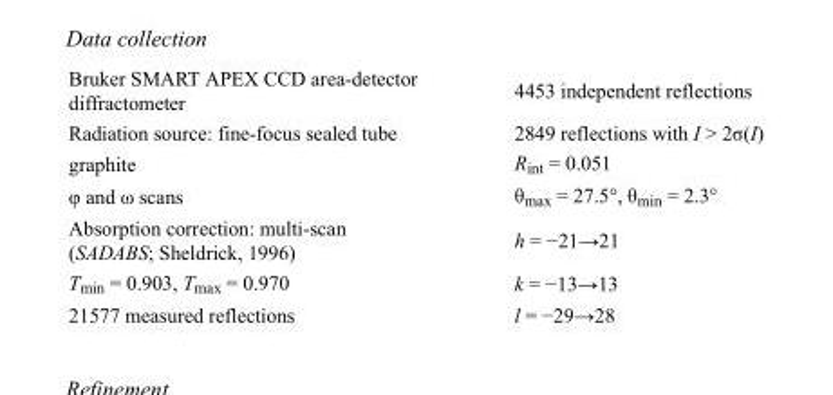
<table><tbody><tr><td>Bruker SMART APEX CCD area-detector diffractometer</td><td>4453 independent reflections</td></tr><tr><td>Radiation source: fine-focus sealed tube</td><td>2849 reflections with I &gt; 2σ(I)</td></tr><tr><td>graphite</td><td>R<sub>int</sub> = 0.051</td></tr><tr><td>φ and ω scans</td><td>θ<sub>max</sub> = 27.5°, θ<sub>min</sub> = 2.3°</td></tr><tr><td>Absorption correction: multi-scan (SADABS; Sheldrick, 1996)</td><td>h = −21→21</td></tr><tr><td>T<sub>min</sub> = 0.903, T<sub>max</sub> = 0.970</td><td>k = −13→13</td></tr><tr><td>21577 measured reflections</td><td>l = −29→28</td></tr></tbody></table>